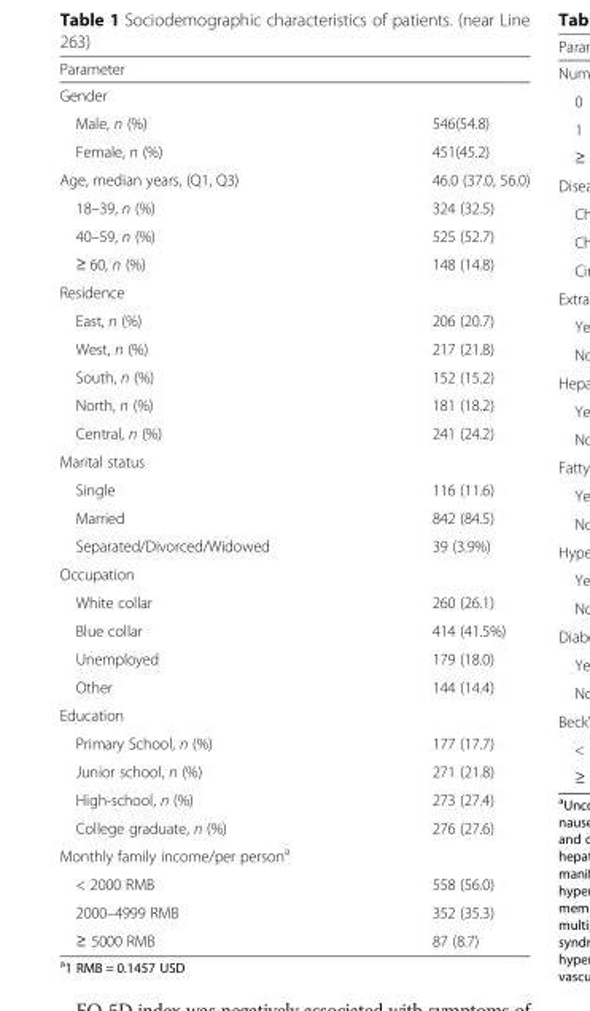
<table><thead><tr><td rowspan="2" colspan="2">Parameter Gender</td></tr><tr></tr><tr><td>Male, n (%)</td><td>546(54.8)</td></tr></thead><tbody><tr><td>Female, n (%)</td><td>451(45.2)</td></tr><tr><td>Age, median years, (Q1, Q3)</td><td>46.0 (37.0, 56.0)</td></tr><tr><td>18–39, n (%)</td><td>324 (32.5)</td></tr><tr><td>40–59, n (%)</td><td>525 (52.7)</td></tr><tr><td>≥ 60, n (%)</td><td>148 (14.8)</td></tr><tr><td colspan="2">Residence</td></tr><tr><td>East, n (%)</td><td>206 (20.7)</td></tr><tr><td>West, n (%)</td><td>217 (21.8)</td></tr><tr><td>South, n (%)</td><td>152 (15.2)</td></tr><tr><td>North, n (%)</td><td>181 (18.2)</td></tr><tr><td>Central, n (%)</td><td>241 (24.2)</td></tr><tr><td colspan="2">Marital status</td></tr><tr><td>Single</td><td>116 (11.6)</td></tr><tr><td>Married</td><td>842 (84.5)</td></tr><tr><td>Separated/Divorced/Widowed</td><td>39 (3.9%)</td></tr><tr><td colspan="2">Occupation</td></tr><tr><td>White collar</td><td>260 (26.1)</td></tr><tr><td>Blue collar</td><td>414 (41.5%)</td></tr><tr><td>Unemployed</td><td>179 (18.0)</td></tr><tr><td>Other</td><td>144 (14.4)</td></tr><tr><td colspan="2">Education</td></tr><tr><td>Primary School, n (%)</td><td>177 (17.7)</td></tr><tr><td>Junior school, n (%)</td><td>271 (21.8)</td></tr><tr><td>High-school, n (%)</td><td>273 (27.4)</td></tr><tr><td>College graduate, n (%)</td><td>276 (27.6)</td></tr><tr><td colspan="2">Monthly family income/per person<sup>a</sup></td></tr><tr><td>&lt; 2000 RMB</td><td>558 (56.0)</td></tr><tr><td>2000–4999 RMB</td><td>352 (35.3)</td></tr><tr><td>≥ 5000 RMB</td><td>87 (8.7)</td></tr></tbody></table>